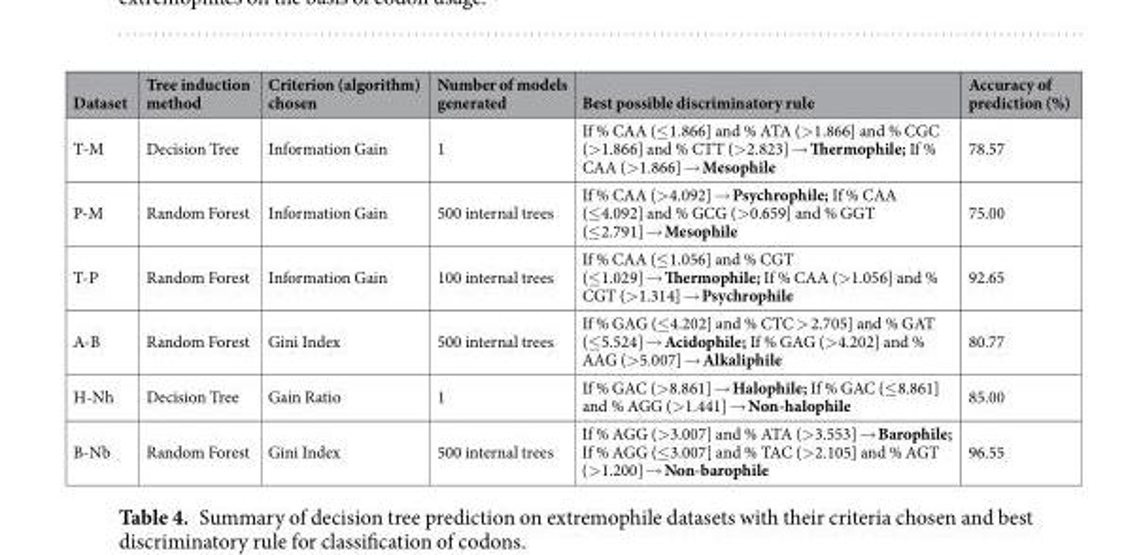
<table><thead><tr><td>Dataset</td><td>Tree induction method</td><td>Criterion (algorithm) chosen</td><td>Number of models generated</td><td>Best possible discriminatory rule</td><td>Accuracy of prediction (%)</td></tr></thead><tbody><tr><td>T-M</td><td>Decision Tree</td><td>Information Gain</td><td>1</td><td>If % CAA (≤1.866] and % ATA (&gt;1.866] and % CGC (&gt;1.866] and % CTT (&gt;2.823] → Thermophile; If % CAA (&gt;1.866] → Mesophile</td><td>78.57</td></tr><tr><td>P-M</td><td>Random Forest</td><td>Information Gain</td><td>500 internal trees</td><td>If % CAA (&gt;4.092] → Psychrophile; If % CAA (≤4.092] and % GCG (&gt;0.659] and % GGT (≤2.791] → Mesophile</td><td>75.00</td></tr><tr><td>T-P</td><td>Random Forest</td><td>Information Gain</td><td>100 internal trees</td><td>If % CAA (≤1.056] and % CGT (≤1.029] → Thermophile; If % CAA (&gt;1.056] and % CGT (&gt;1.314] → Psychrophile</td><td>92.65</td></tr><tr><td>A-B</td><td>Random Forest</td><td>Gini Index</td><td>500 internal trees</td><td>If % GAG (≤4.202] and % CTC &gt; 2.705] and % GAT (≤5.524] → Acidophile; If % GAG (&gt;4.202] and % AAG (&gt;5.007] → Alkaliphile</td><td>80.77</td></tr><tr><td>H-Nh</td><td>Decision Tree</td><td>Gain Ratio</td><td>1</td><td>If % GAC (&gt;8.861] → Halophile; If % GAC (≤8.861] and % AGG (&gt;1.441] → Non-halophile</td><td>85.00</td></tr><tr><td>B-Nb</td><td>Random Forest</td><td>Gini Index</td><td>500 internal trees</td><td>If % AGG (&gt;3.007] and % ATA (&gt;3.553] → Barophile; If % AGG (≤3.007] and % TAC (&gt;2.105] and % AGT (&gt;1.200] → Non-barophile</td><td>96.55</td></tr></tbody></table>